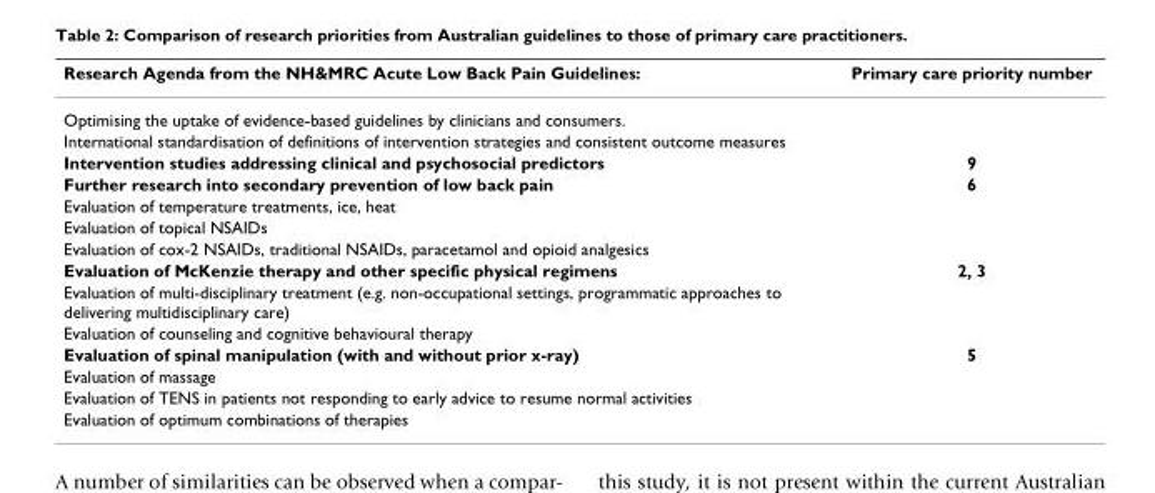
<table><thead><tr><td>Research Agenda from the NH&amp;MRC Acute Low Back Pain Guidelines:</td><td>Primary care priority number</td></tr></thead><tbody><tr><td colspan="2">Optimising the uptake of evidence-based guidelines by clinicians and consumers.</td></tr><tr><td colspan="2">International standardisation of definitions of intervention strategies and consistent outcome measures</td></tr><tr><td>Intervention studies addressing clinical and psychosocial predictors</td><td>9</td></tr><tr><td>Further research into secondary prevention of low back pain</td><td>6</td></tr><tr><td colspan="2">Evaluation of temperature treatments, ice, heat</td></tr><tr><td colspan="2">Evaluation of topical NSAIDs</td></tr><tr><td colspan="2">Evaluation of cox-2 NSAIDs, traditional NSAIDs, paracetamol and opioid analgesics</td></tr><tr><td>Evaluation of McKenzie therapy and other specific physical regimens</td><td>2, 3</td></tr><tr><td colspan="2">Evaluation of multi-disciplinary treatment (e.g. non-occupational settings, programmatic approaches to delivering multidisciplinary care)</td></tr><tr><td colspan="2">Evaluation of counseling and cognitive behavioural therapy</td></tr><tr><td>Evaluation of spinal manipulation (with and without prior x-ray)</td><td>5</td></tr><tr><td colspan="2">Evaluation of massage</td></tr><tr><td colspan="2">Evaluation of TENS in patients not responding to early advice to resume normal activities</td></tr><tr><td>Evaluation of optimum combinations of therapies</td><td></td></tr></tbody></table>